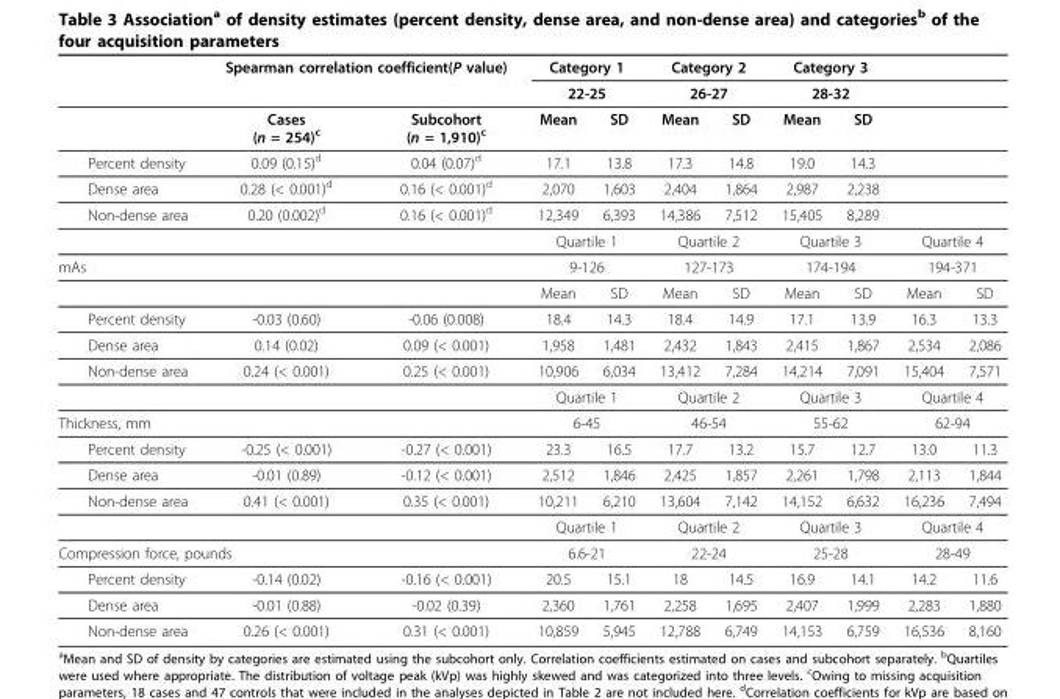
<table><thead><tr><td rowspan="3"></td><td colspan="2">Spearman correlation coefficient(P value)</td><td rowspan="2" colspan="2">Category 1 22-25</td><td rowspan="2" colspan="2">Category 2 26-27</td><td rowspan="2" colspan="2">Category 3 28-32</td><td rowspan="3"></td><td rowspan="3"></td></tr><tr><td rowspan="2">Cases (n = 254)c</td><td rowspan="2">Subcohort (n = 1,910)c</td></tr><tr><td>Mean</td><td>SD</td><td>Mean</td><td>SD</td><td>Mean</td><td>SD</td></tr></thead><tbody><tr><td>Percent density</td><td>0.09 (0.15)<sup>d</sup></td><td>0.04 (0.07)<sup>d</sup></td><td>17.1</td><td>13.8</td><td>17.3</td><td>14.8</td><td>19.0</td><td>14.3</td><td></td><td></td></tr><tr><td>Dense area</td><td>0.28 (&lt; 0.001)<sup>d</sup></td><td>0.16 (&lt; 0.001)<sup>d</sup></td><td>2,070</td><td>1,603</td><td>2,404</td><td>1,864</td><td>2,987</td><td>2,238</td><td></td><td></td></tr><tr><td rowspan="2">Non-dense area</td><td>0.20 (0.002)<sup>d</sup></td><td>0.16 (&lt; 0.001)<sup>d</sup></td><td>12,349</td><td>6,393</td><td>14,386</td><td>7,512</td><td>15,405</td><td>8,289</td><td></td><td></td></tr><tr><td></td><td></td><td colspan="2">Quartile 1</td><td colspan="2">Quartile 2</td><td colspan="2">Quartile 3</td><td colspan="2">Quartile 4</td></tr><tr><td rowspan="2">mAs</td><td></td><td></td><td colspan="2">9-126</td><td colspan="2">127-173</td><td colspan="2">174-194</td><td colspan="2">194-371</td></tr><tr><td></td><td></td><td>Mean</td><td>SD</td><td>Mean</td><td>SD</td><td>Mean</td><td>SD</td><td>Mean</td><td>SD</td></tr><tr><td>Percent density</td><td>-0.03 (0.60)</td><td>-0.06 (0.008)</td><td>18.4</td><td>14.3</td><td>18.4</td><td>14.9</td><td>17.1</td><td>13.9</td><td>16.3</td><td>13.3</td></tr><tr><td>Dense area</td><td>0.14 (0.02)</td><td>0.09 (&lt; 0.001)</td><td>1,958</td><td>1,481</td><td>2,432</td><td>1,843</td><td>2,415</td><td>1,867</td><td>2,534</td><td>2,086</td></tr><tr><td rowspan="2">Non-dense area</td><td>0.24 (&lt; 0.001)</td><td>0.25 (&lt; 0.001)</td><td>10,906</td><td>6,034</td><td>13,412</td><td>7,284</td><td>14,214</td><td>7,091</td><td>15,404</td><td>7,571</td></tr><tr><td></td><td></td><td colspan="2">Quartile 1</td><td colspan="2">Quartile 2</td><td colspan="2">Quartile 3</td><td colspan="2">Quartile 4</td></tr><tr><td>Thickness, mm</td><td></td><td></td><td colspan="2">6-45</td><td colspan="2">46-54</td><td colspan="2">55-62</td><td colspan="2">62-94</td></tr><tr><td>Percent density</td><td>-0.25 (&lt; 0.001)</td><td>-0.27 (&lt; 0.001)</td><td>23.3</td><td>16.5</td><td>17.7</td><td>13.2</td><td>15.7</td><td>12.7</td><td>13.0</td><td>11.3</td></tr><tr><td>Dense area</td><td>-0.01 (0.89)</td><td>-0.12 (&lt; 0.001)</td><td>2,512</td><td>1,846</td><td>2,425</td><td>1,857</td><td>2,261</td><td>1,798</td><td>2,113</td><td>1,844</td></tr><tr><td rowspan="2">Non-dense area</td><td>0.41 (&lt; 0.001)</td><td>0.35 (&lt; 0.001)</td><td>10,211</td><td>6,210</td><td>13,604</td><td>7,142</td><td>14,152</td><td>6,632</td><td>16,236</td><td>7,494</td></tr><tr><td></td><td></td><td colspan="2">Quartile 1</td><td colspan="2">Quartile 2</td><td colspan="2">Quartile 3</td><td colspan="2">Quartile 4</td></tr><tr><td colspan="2">Compression force, pounds</td><td></td><td colspan="2">6.6-21</td><td colspan="2">22-24</td><td colspan="2">25-28</td><td colspan="2">28-49</td></tr><tr><td>Percent density</td><td>-0.14 (0.02)</td><td>-0.16 (&lt; 0.001)</td><td>20.5</td><td>15.1</td><td>18</td><td>14.5</td><td>16.9</td><td>14.1</td><td>14.2</td><td>11.6</td></tr><tr><td>Dense area</td><td>-0.01 (0.88)</td><td>-0.02 (0.39)</td><td>2,360</td><td>1,761</td><td>2,258</td><td>1,695</td><td>2,407</td><td>1,999</td><td>2,283</td><td>1,880</td></tr><tr><td>Non-dense area</td><td>0.26 (&lt; 0.001)</td><td>0.31 (&lt; 0.001)</td><td>10,859</td><td>5,945</td><td>12,788</td><td>6,749</td><td>14,153</td><td>6,759</td><td>16,536</td><td>8,160</td></tr></tbody></table>